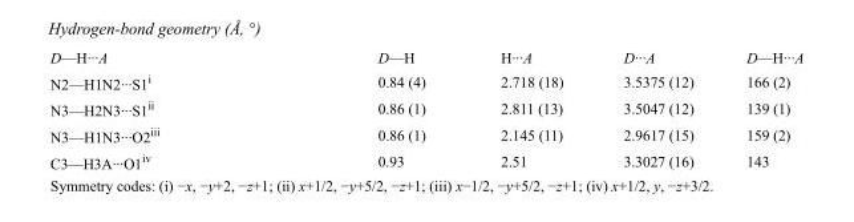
<table><tbody><tr><td>D—H···A</td><td>D—H</td><td>H···A</td><td>D···A</td><td>D—H···A</td></tr><tr><td>N2—H1N2···S1<sup>i</sup></td><td>0.84 (4)</td><td>2.718 (18)</td><td>3.5375 (12)</td><td>166 (2)</td></tr><tr><td>N3—H2N3···S1<sup>ii</sup></td><td>0.86 (1)</td><td>2.811 (13)</td><td>3.5047 (12)</td><td>139 (1)</td></tr><tr><td>N3—H1N3···O2<sup>iii</sup></td><td>0.86 (1)</td><td>2.145 (11)</td><td>2.9617 (15)</td><td>159 (2)</td></tr><tr><td>C3—H3A···O1<sup>iv</sup></td><td>0.93</td><td>2.51</td><td>3.3027 (16)</td><td>143</td></tr></tbody></table>